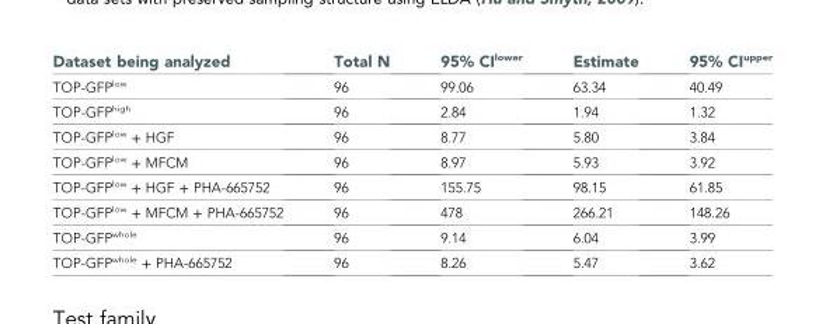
<table><thead><tr><td>Dataset being analyzed</td><td>Total N</td><td>95% CI<sup>lower</sup></td><td>Estimate</td><td>95% CI<sup>upper</sup></td></tr></thead><tbody><tr><td>TOP-GFP<sup>low</sup></td><td>96</td><td>99.06</td><td>63.34</td><td>40.49</td></tr><tr><td>TOP-GFP<sup>high</sup></td><td>96</td><td>2.84</td><td>1.94</td><td>1.32</td></tr><tr><td>TOP-GFP<sup>low</sup> + HGF</td><td>96</td><td>8.77</td><td>5.80</td><td>3.84</td></tr><tr><td>TOP-GFP<sup>low</sup> + MFCM</td><td>96</td><td>8.97</td><td>5.93</td><td>3.92</td></tr><tr><td>TOP-GFP<sup>low</sup> + HGF + PHA-665752</td><td>96</td><td>155.75</td><td>98.15</td><td>61.85</td></tr><tr><td>TOP-GFP<sup>low</sup> + MFCM + PHA-665752</td><td>96</td><td>478</td><td>266.21</td><td>148.26</td></tr><tr><td>TOP-GFP<sup>whole</sup></td><td>96</td><td>9.14</td><td>6.04</td><td>3.99</td></tr><tr><td>TOP-GFP<sup>whole</sup> + PHA-665752</td><td>96</td><td>8.26</td><td>5.47</td><td>3.62</td></tr></tbody></table>